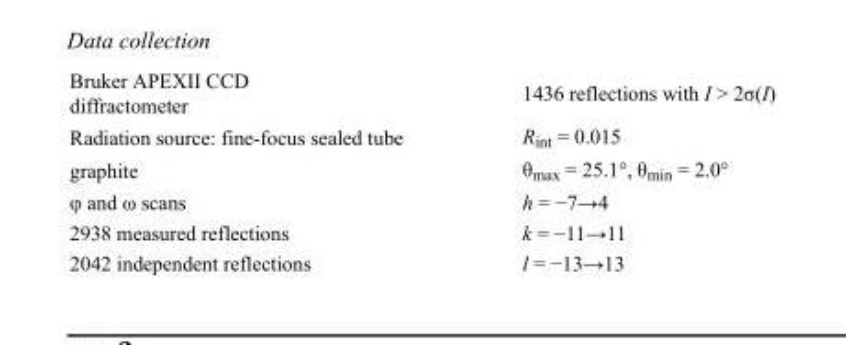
<table><tbody><tr><td>Bruker APEXII CCD diffractometer</td><td>1436 reflections with I &gt; 2σ(I)</td></tr><tr><td>Radiation source: fine-focus sealed tube</td><td>R<sub>int</sub> = 0.015</td></tr><tr><td>graphite</td><td>θ<sub>max</sub> = 25.1°, θ<sub>min</sub> = 2.0°</td></tr><tr><td>φ and ω scans</td><td>h = −7→4</td></tr><tr><td>2938 measured reflections</td><td>k = −11→11</td></tr><tr><td>2042 independent reflections</td><td>l = −13→13</td></tr></tbody></table>